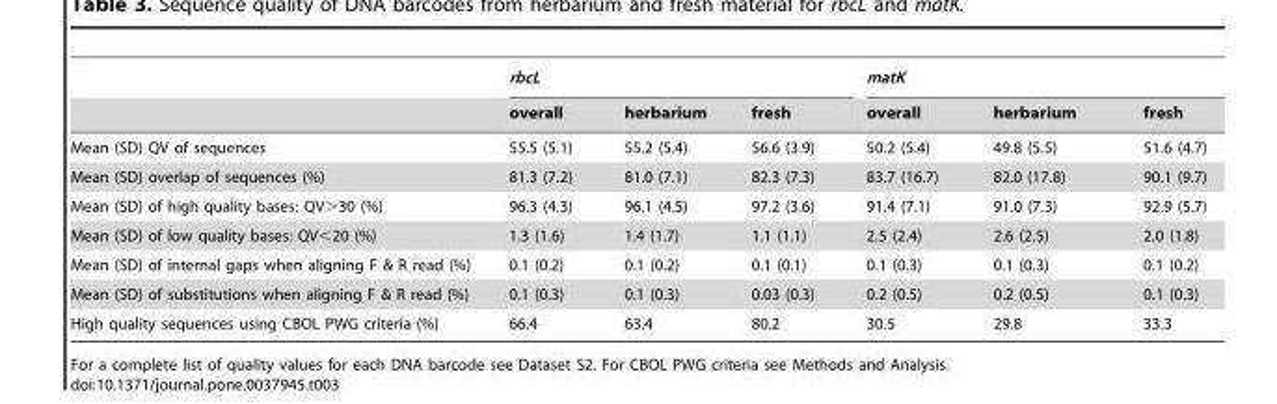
<table><thead><tr><td rowspan="2"></td><td colspan="3">rbcL</td><td colspan="3">matK</td></tr><tr><td>overall</td><td>herbarium</td><td>fresh</td><td>overall</td><td>herbarium</td><td>fresh</td></tr></thead><tbody><tr><td>Mean (SD) QV of sequences</td><td>55.5 (5.1)</td><td>55.2 (5.4)</td><td>56.6 (3.9)</td><td>50.2 (5.4)</td><td>49.8 (5.5)</td><td>51.6 (4.7)</td></tr><tr><td>Mean (SD) overlap of sequences (%)</td><td>81.3 (7.2)</td><td>81.0 (7.1)</td><td>82.3 (7.3)</td><td>83.7 (16.7)</td><td>82.0 (17.8)</td><td>90.1 (9.7)</td></tr><tr><td>Mean (SD) of high quality bases: QV&gt;30 (%)</td><td>96.3 (4.3)</td><td>96.1 (4.5)</td><td>97.2 (3.6)</td><td>91.4 (7.1)</td><td>91.0 (7.3)</td><td>92.9 (5.7)</td></tr><tr><td>Mean (SD) of low quality bases: QV&lt;20 (%)</td><td>1.3 (1.6)</td><td>1.4 (1.7)</td><td>1.1 (1.1)</td><td>2.5 (2.4)</td><td>2.6 (2.5)</td><td>2.0 (1.8)</td></tr><tr><td>Mean (SD) of internal gaps when aligning F &amp; R read (%)</td><td>0.1 (0.2)</td><td>0.1 (0.2)</td><td>0.1 (0.1)</td><td>0.1 (0.3)</td><td>0.1 (0.3)</td><td>0.1 (0.2)</td></tr><tr><td>Mean (SD) of substitutions when aligning F &amp; R read (%)</td><td>0.1 (0.3)</td><td>0.1 (0.3)</td><td>0.03 (0.3)</td><td>0.2 (0.5)</td><td>0.2 (0.5)</td><td>0.1 (0.3)</td></tr><tr><td>High quality sequences using CBOL PWG criteria (%)</td><td>66.4</td><td>63.4</td><td>80.2</td><td>30.5</td><td>29.8</td><td>33.3</td></tr></tbody></table>